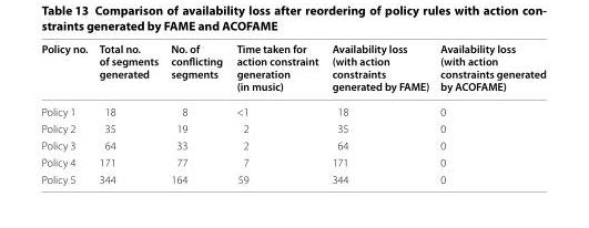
<table><thead><tr><td>Policy no.</td><td>Total no. of segments generated</td><td>No. of conflicting segments</td><td>Time taken for action constraint generation (in music)</td><td>Availability loss (with action constraints generated by FAME)</td><td>Availability loss (with action constraints generated by ACOFAME)</td></tr></thead><tbody><tr><td>Policy 1</td><td>18</td><td>8</td><td>&lt;1</td><td>18</td><td>0</td></tr><tr><td>Policy 2</td><td>35</td><td>19</td><td>2</td><td>35</td><td>0</td></tr><tr><td>Policy 3</td><td>64</td><td>33</td><td>2</td><td>64</td><td>0</td></tr><tr><td>Policy 4</td><td>171</td><td>77</td><td>7</td><td>171</td><td>0</td></tr><tr><td>Policy 5</td><td>344</td><td>164</td><td>59</td><td>344</td><td>0</td></tr></tbody></table>